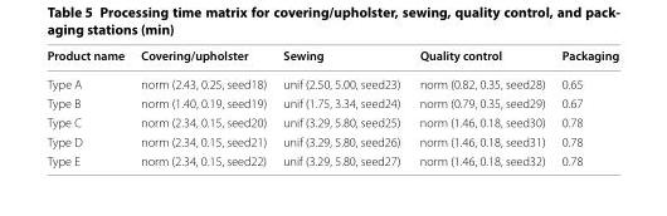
<table><thead><tr><td>Product name</td><td>Covering/upholster</td><td>Sewing</td><td>Quality control</td><td>Packaging</td></tr></thead><tbody><tr><td>Type A</td><td>norm (2.43, 0.25, seed18)</td><td>unif (2.50, 5.00, seed23)</td><td>norm (0.82, 0.35, seed28)</td><td>0.65</td></tr><tr><td>Type B</td><td>norm (1.40, 0.19, seed19)</td><td>unif (1.75, 3.34, seed24)</td><td>norm (0.79, 0.35, seed29)</td><td>0.67</td></tr><tr><td>Type C</td><td>norm (2.34, 0.15, seed20)</td><td>unif (3.29, 5.80, seed25)</td><td>norm (1.46, 0.18, seed30)</td><td>0.78</td></tr><tr><td>Type D</td><td>norm (2.34, 0.15, seed21)</td><td>unif (3.29, 5.80, seed26)</td><td>norm (1.46, 0.18, seed31)</td><td>0.78</td></tr><tr><td>Type E</td><td>norm (2.34, 0.15, seed22)</td><td>unif (3.29, 5.80, seed27)</td><td>norm (1.46, 0.18, seed32)</td><td>0.78</td></tr></tbody></table>